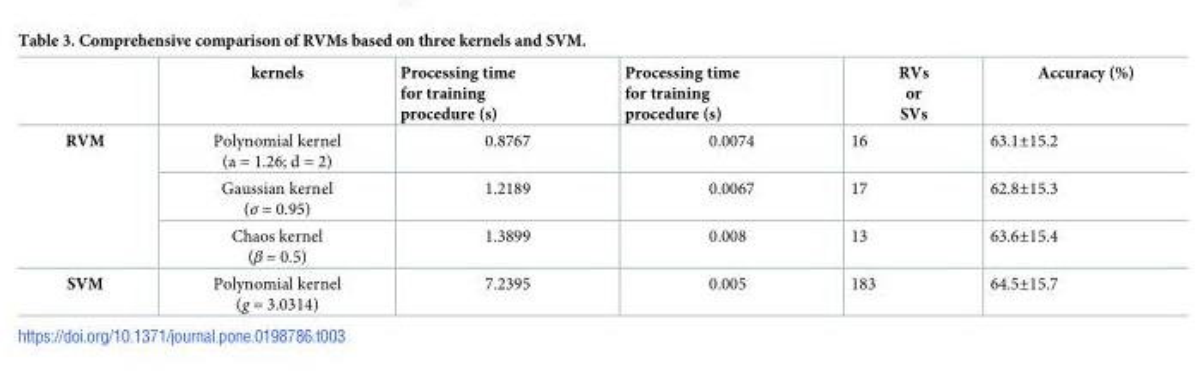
<table><thead><tr><td></td><td>kernels</td><td>Processing time for training procedure (s)</td><td>Processing time for training procedure (s)</td><td>RVs or SVs</td><td>Accuracy (%)</td></tr></thead><tbody><tr><td rowspan="3">RVM</td><td>Polynomial kernel (a = 1.26; d = 2)</td><td>0.8767</td><td>0.0074</td><td>16</td><td>63.1±15.2</td></tr><tr><td>Gaussian kernel (σ = 0.95)</td><td>1.2189</td><td>0.0067</td><td>17</td><td>62.8±15.3</td></tr><tr><td>Chaos kernel (β = 0.5)</td><td>1.3899</td><td>0.008</td><td>13</td><td>63.6±15.4</td></tr><tr><td>SVM</td><td>Polynomial kernel (g = 3.0314)</td><td>7.2395</td><td>0.005</td><td>183</td><td>64.5±15.7</td></tr></tbody></table>